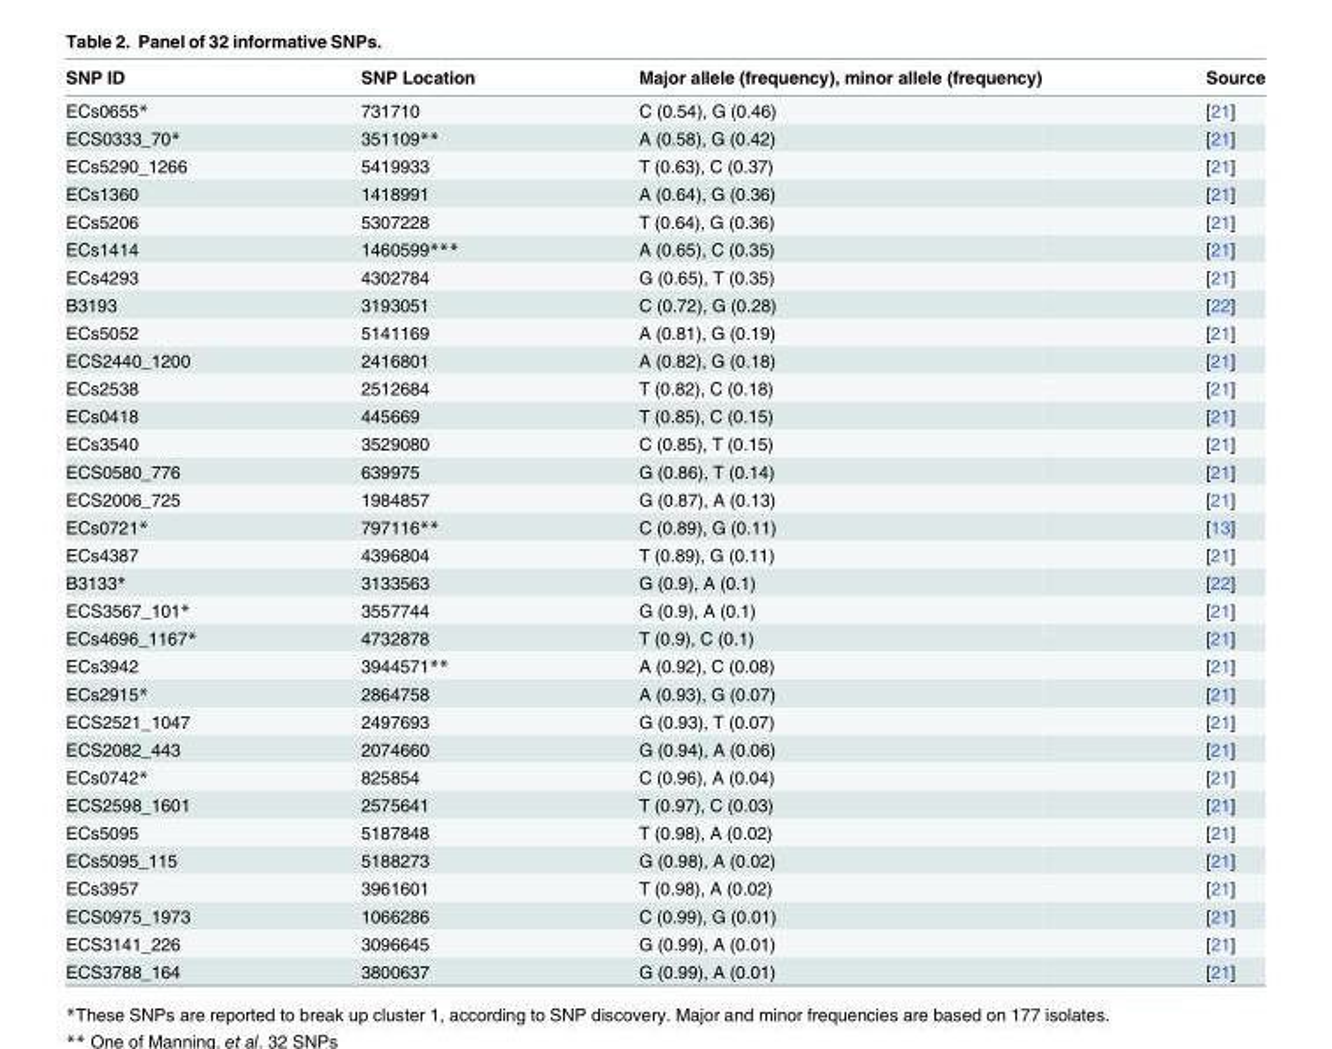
<table><thead><tr><td>SNP ID</td><td>SNP Location</td><td>Major allele (frequency), minor allele (frequency)</td><td>Source</td></tr></thead><tbody><tr><td>ECs0655*</td><td>731710</td><td>C (0.54), G (0.46)</td><td>[21]</td></tr><tr><td>ECS0333_70*</td><td>351109**</td><td>A (0.58), G (0.42)</td><td>[21]</td></tr><tr><td>ECs5290_1266</td><td>5419933</td><td>T (0.63), C (0.37)</td><td>[21]</td></tr><tr><td>ECs1360</td><td>1418991</td><td>A (0.64), G (0.36)</td><td>[21]</td></tr><tr><td>ECs5206</td><td>5307228</td><td>T (0.64), G (0.36)</td><td>[21]</td></tr><tr><td>ECs1414</td><td>1460599***</td><td>A (0.65), C (0.35)</td><td>[21]</td></tr><tr><td>ECs4293</td><td>4302784</td><td>G (0.65), T (0.35)</td><td>[21]</td></tr><tr><td>B3193</td><td>3193051</td><td>C (0.72), G (0.28)</td><td>[22]</td></tr><tr><td>ECs5052</td><td>5141169</td><td>A (0.81), G (0.19)</td><td>[21]</td></tr><tr><td>ECS2440_1200</td><td>2416801</td><td>A (0.82), G (0.18)</td><td>[21]</td></tr><tr><td>ECs2538</td><td>2512684</td><td>T (0.82), C (0.18)</td><td>[21]</td></tr><tr><td>ECs0418</td><td>445669</td><td>T (0.85), C (0.15)</td><td>[21]</td></tr><tr><td>ECs3540</td><td>3529080</td><td>C (0.85), T (0.15)</td><td>[21]</td></tr><tr><td>ECS0580_776</td><td>639975</td><td>G (0.86), T (0.14)</td><td>[21]</td></tr><tr><td>ECS2006_725</td><td>1984857</td><td>G (0.87), A (0.13)</td><td>[21]</td></tr><tr><td>ECs0721*</td><td>797116**</td><td>C (0.89), G (0.11)</td><td>[13]</td></tr><tr><td>ECs4387</td><td>4396804</td><td>T (0.89), G (0.11)</td><td>[21]</td></tr><tr><td>B3133*</td><td>3133563</td><td>G (0.9), A (0.1)</td><td>[22]</td></tr><tr><td>ECS3567_101*</td><td>3557744</td><td>G (0.9), A (0.1)</td><td>[21]</td></tr><tr><td>ECs4696_1167*</td><td>4732878</td><td>T (0.9), C (0.1)</td><td>[21]</td></tr><tr><td>ECs3942</td><td>3944571**</td><td>A (0.92), C (0.08)</td><td>[21]</td></tr><tr><td>ECs2915*</td><td>2864758</td><td>A (0.93), G (0.07)</td><td>[21]</td></tr><tr><td>ECS2521_1047</td><td>2497693</td><td>G (0.93), T (0.07)</td><td>[21]</td></tr><tr><td>ECS2082_443</td><td>2074660</td><td>G (0.94), A (0.06)</td><td>[21]</td></tr><tr><td>ECs0742*</td><td>825854</td><td>C (0.96), A (0.04)</td><td>[21]</td></tr><tr><td>ECS2598_1601</td><td>2575641</td><td>T (0.97), C (0.03)</td><td>[21]</td></tr><tr><td>ECs5095</td><td>5187848</td><td>T (0.98), A (0.02)</td><td>[21]</td></tr><tr><td>ECs5095_115</td><td>5188273</td><td>G (0.98), A (0.02)</td><td>[21]</td></tr><tr><td>ECs3957</td><td>3961601</td><td>T (0.98), A (0.02)</td><td>[21]</td></tr><tr><td>ECS0975_1973</td><td>1066286</td><td>C (0.99), G (0.01)</td><td>[21]</td></tr><tr><td>ECS3141_226</td><td>3096645</td><td>G (0.99), A (0.01)</td><td>[21]</td></tr><tr><td>ECS3788_164</td><td>3800637</td><td>G (0.99), A (0.01)</td><td>[21]</td></tr></tbody></table>